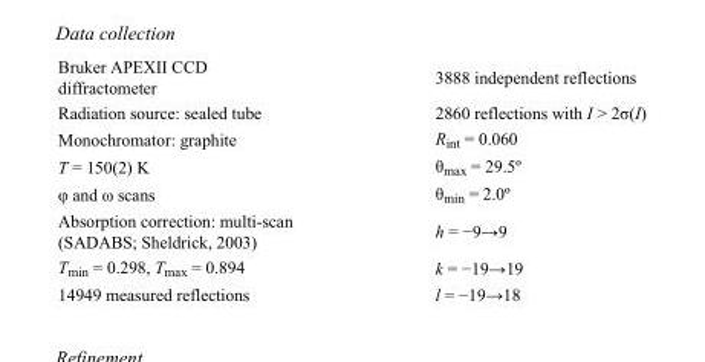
<table><tbody><tr><td>Bruker APEXII CCD diffractometer</td><td>3888 independent reflections</td></tr><tr><td>Radiation source: sealed tube</td><td>2860 reflections with I &gt; 2σ(I)</td></tr><tr><td>Monochromator: graphite</td><td>R<sub>int</sub> = 0.060</td></tr><tr><td>T = 150(2) K</td><td>θ<sub>max</sub> = 29.5º</td></tr><tr><td>φ and ω scans</td><td>θ<sub>min</sub> = 2.0º</td></tr><tr><td>Absorption correction: multi-scan (SADABS; Sheldrick, 2003)</td><td>h = −9→9</td></tr><tr><td>T<sub>min</sub> = 0.298, T<sub>max</sub> = 0.894</td><td>k = −19→19</td></tr><tr><td>14949 measured reflections</td><td>l = −19→18</td></tr></tbody></table>